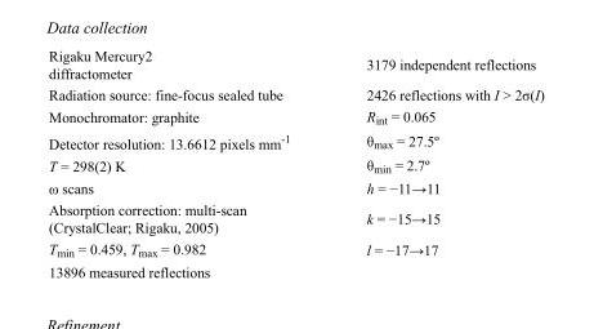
<table><tbody><tr><td>Rigaku Mercury2 diffractometer</td><td>3179 independent reflections</td></tr><tr><td>Radiation source: fine-focus sealed tube</td><td>2426 reflections with I &gt; 2σ(I)</td></tr><tr><td>Monochromator: graphite</td><td>R<sub>int</sub> = 0.065</td></tr><tr><td>Detector resolution: 13.6612 pixels mm<sup>-1</sup></td><td>θ<sub>max</sub> = 27.5º</td></tr><tr><td>T = 298(2) K</td><td>θ<sub>min</sub> = 2.7º</td></tr><tr><td>ω scans</td><td>h = −11→11</td></tr><tr><td>Absorption correction: multi-scan (CrystalClear; Rigaku, 2005)</td><td>k = −15→15</td></tr><tr><td>T<sub>min</sub> = 0.459, T<sub>max</sub> = 0.982</td><td>l = −17→17</td></tr><tr><td>13896 measured reflections</td><td></td></tr></tbody></table>